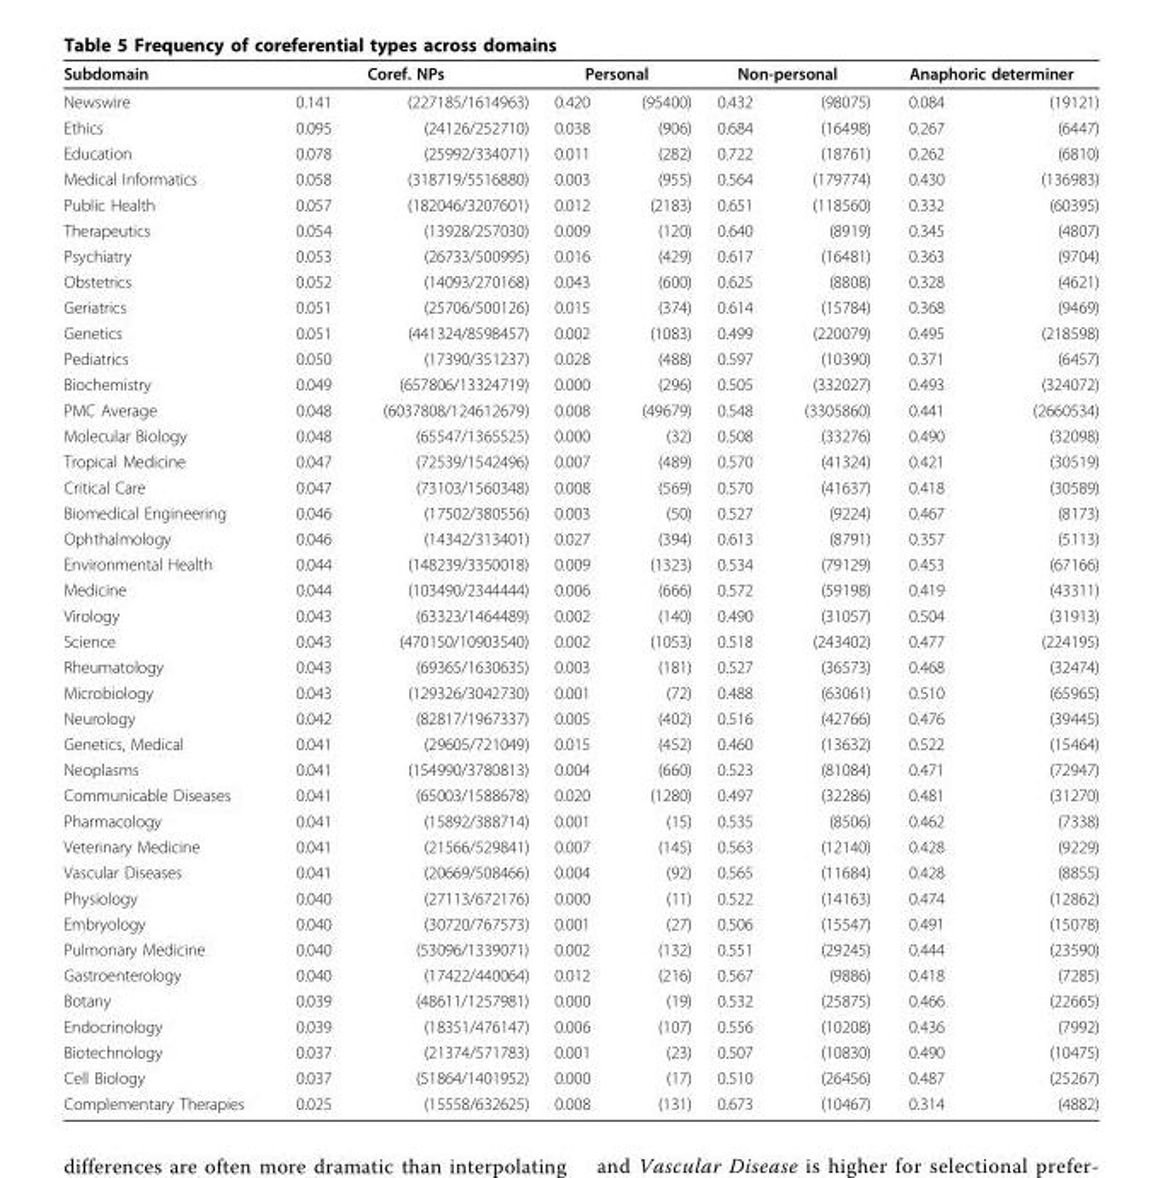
<table><thead><tr><td rowspan="2">Subdomain Newswire</td><td colspan="2">Coref. NPs</td><td colspan="2">Personal</td><td colspan="2">Non-personal</td><td colspan="2">Anaphoric determiner</td></tr><tr><td>0.141</td><td>(227185/1614963)</td><td>0.420</td><td>(95400)</td><td>0.432</td><td>(98075)</td><td>0.084</td><td>(19121)</td></tr></thead><tbody><tr><td>Ethics</td><td>0.095</td><td>(24126/252710)</td><td>0.038</td><td>(906)</td><td>0.684</td><td>(16498)</td><td>0.267</td><td>(6447)</td></tr><tr><td>Education</td><td>0.078</td><td>(25992/334071)</td><td>0.011</td><td>(282)</td><td>0.722</td><td>(18761)</td><td>0.262</td><td>(6810)</td></tr><tr><td>Medical Informatics</td><td>0.058</td><td>(318719/5516880)</td><td>0.003</td><td>(955)</td><td>0.564</td><td>(179774)</td><td>0.430</td><td>(136983)</td></tr><tr><td>Public Health</td><td>0.057</td><td>(182046/3207601)</td><td>0.012</td><td>(2183)</td><td>0.651</td><td>(118560)</td><td>0.332</td><td>(60395)</td></tr><tr><td>Therapeutics</td><td>0.054</td><td>(13928/257030)</td><td>0.009</td><td>(120)</td><td>0.640</td><td>(8919)</td><td>0.345</td><td>(4807)</td></tr><tr><td>Psychiatry</td><td>0.053</td><td>(26733/500995)</td><td>0.016</td><td>(429)</td><td>0.617</td><td>(16481)</td><td>0.363</td><td>(9704)</td></tr><tr><td>Obstetrics</td><td>0.052</td><td>(14093/270168)</td><td>0.043</td><td>(600)</td><td>0.625</td><td>(8808)</td><td>0.328</td><td>(4621)</td></tr><tr><td>Geriatrics</td><td>0.051</td><td>(25706/500126)</td><td>0.015</td><td>(374)</td><td>0.614</td><td>(15784)</td><td>0.368</td><td>(9469)</td></tr><tr><td>Genetics</td><td>0.051</td><td>(441324/8598457)</td><td>0.002</td><td>(1083)</td><td>0.499</td><td>(220079)</td><td>0.495</td><td>(218598)</td></tr><tr><td>Pediatrics</td><td>0.050</td><td>(17390/351237)</td><td>0.028</td><td>(488)</td><td>0.597</td><td>(10390)</td><td>0.371</td><td>(6457)</td></tr><tr><td>Biochemistry</td><td>0.049</td><td>(657806/13324719)</td><td>0.000</td><td>(296)</td><td>0.505</td><td>(332027)</td><td>0.493</td><td>(324072)</td></tr><tr><td>PMC Average</td><td>0.048</td><td>(6037808/124612679)</td><td>0.008</td><td>(49679)</td><td>0.548</td><td>(3305860)</td><td>0.441</td><td>(2660534)</td></tr><tr><td>Molecular Biology</td><td>0.048</td><td>(65547/1365525)</td><td>0.000</td><td>(32)</td><td>0.508</td><td>(33276)</td><td>0.490</td><td>(32098)</td></tr><tr><td>Tropical Medicine</td><td>0.047</td><td>(72539/1542496)</td><td>0.007</td><td>(489)</td><td>0.570</td><td>(41324)</td><td>0.421</td><td>(30519)</td></tr><tr><td>Critical Care</td><td>0.047</td><td>(73103/1560348)</td><td>0.008</td><td>(569)</td><td>0.570</td><td>(41637)</td><td>0.418</td><td>(30589)</td></tr><tr><td>Biomedical Engineering</td><td>0.046</td><td>(17502/380556)</td><td>0.003</td><td>(50)</td><td>0.527</td><td>(9224)</td><td>0.467</td><td>(8173)</td></tr><tr><td>Ophthalmology</td><td>0.046</td><td>(14342/313401)</td><td>0.027</td><td>(394)</td><td>0.613</td><td>(8791)</td><td>0.357</td><td>(5113)</td></tr><tr><td>Environmental Health</td><td>0.044</td><td>(148239/3350018)</td><td>0.009</td><td>(1323)</td><td>0.534</td><td>(79129)</td><td>0.453</td><td>(67166)</td></tr><tr><td>Medicine</td><td>0.044</td><td>(103490/2344444)</td><td>0.006</td><td>(666)</td><td>0.572</td><td>(59198)</td><td>0.419</td><td>(43311)</td></tr><tr><td>Virology</td><td>0.043</td><td>(63323/1464489)</td><td>0.002</td><td>(140)</td><td>0.490</td><td>(31057)</td><td>0.504</td><td>(31913)</td></tr><tr><td>Science</td><td>0.043</td><td>(470150/10903540)</td><td>0.002</td><td>(1053)</td><td>0.518</td><td>(243402)</td><td>0.477</td><td>(224195)</td></tr><tr><td>Rheumatology</td><td>0.043</td><td>(69365/1630635)</td><td>0.003</td><td>(181)</td><td>0.527</td><td>(36573)</td><td>0.468</td><td>(32474)</td></tr><tr><td>Microbiology</td><td>0.043</td><td>(129326/3042730)</td><td>0.001</td><td>(72)</td><td>0.488</td><td>(63061)</td><td>0.510</td><td>(65965)</td></tr><tr><td>Neurology</td><td>0.042</td><td>(82817/1967337)</td><td>0.005</td><td>(402)</td><td>0.516</td><td>(42766)</td><td>0.476</td><td>(39445)</td></tr><tr><td>Genetics, Medical</td><td>0.041</td><td>(29605/721049)</td><td>0.015</td><td>(452)</td><td>0.460</td><td>(13632)</td><td>0.522</td><td>(15464)</td></tr><tr><td>Neoplasms</td><td>0.041</td><td>(154990/3780813)</td><td>0.004</td><td>(660)</td><td>0.523</td><td>(81084)</td><td>0.471</td><td>(72947)</td></tr><tr><td>Communicable Diseases</td><td>0.041</td><td>(65003/1588678)</td><td>0.020</td><td>(1280)</td><td>0.497</td><td>(32286)</td><td>0.481</td><td>(31270)</td></tr><tr><td>Pharmacology</td><td>0.041</td><td>(15892/388714)</td><td>0.001</td><td>(15)</td><td>0.535</td><td>(8506)</td><td>0.462</td><td>(7338)</td></tr><tr><td>Veterinary Medicine</td><td>0.041</td><td>(21566/529841)</td><td>0.007</td><td>(145)</td><td>0.563</td><td>(12140)</td><td>0.428</td><td>(9229)</td></tr><tr><td>Vascular Diseases</td><td>0.041</td><td>(20669/508466)</td><td>0.004</td><td>(92)</td><td>0.565</td><td>(11684)</td><td>0.428</td><td>(8855)</td></tr><tr><td>Physiology</td><td>0.040</td><td>(27113/672176)</td><td>0.000</td><td>(11)</td><td>0.522</td><td>(14163)</td><td>0.474</td><td>(12862)</td></tr><tr><td>Embryology</td><td>0.040</td><td>(30720/767573)</td><td>0.001</td><td>(27)</td><td>0.506</td><td>(15547)</td><td>0.491</td><td>(15078)</td></tr><tr><td>Pulmonary Medicine</td><td>0.040</td><td>(53096/1339071)</td><td>0.002</td><td>(132)</td><td>0.551</td><td>(29245)</td><td>0.444</td><td>(23590)</td></tr><tr><td>Gastroenterology</td><td>0.040</td><td>(17422/440064)</td><td>0.012</td><td>(216)</td><td>0.567</td><td>(9886)</td><td>0.418</td><td>(7285)</td></tr><tr><td>Botany</td><td>0.039</td><td>(48611/1257981)</td><td>0.000</td><td>(19)</td><td>0.532</td><td>(25875)</td><td>0.466</td><td>(22665)</td></tr><tr><td>Endocrinology</td><td>0.039</td><td>(18351/476147)</td><td>0.006</td><td>(107)</td><td>0.556</td><td>(10208)</td><td>0.436</td><td>(7992)</td></tr><tr><td>Biotechnology</td><td>0.037</td><td>(21374/571783)</td><td>0.001</td><td>(23)</td><td>0.507</td><td>(10830)</td><td>0.490</td><td>(10475)</td></tr><tr><td>Cell Biology</td><td>0.037</td><td>(51864/1401952)</td><td>0.000</td><td>(17)</td><td>0.510</td><td>(26456)</td><td>0.487</td><td>(25267)</td></tr><tr><td>Complementary Therapies</td><td>0.025</td><td>(15558/632625)</td><td>0.008</td><td>(131)</td><td>0.673</td><td>(10467)</td><td>0.314</td><td>(4882)</td></tr></tbody></table>